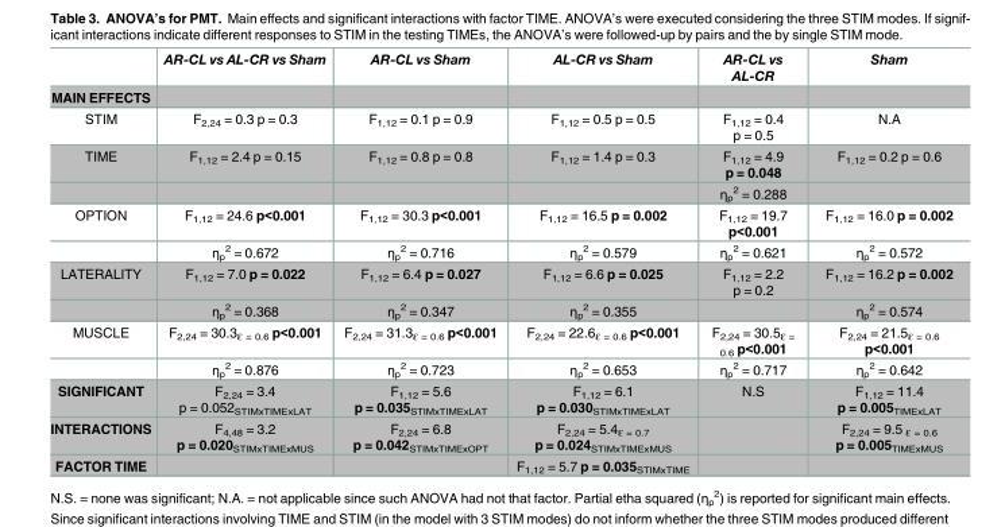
<table><thead><tr><td></td><td>AR-CL vs AL-CR vs Sham</td><td>AR-CL vs Sham</td><td>AL-CR vs Sham</td><td>AR-CL vs AL-CR</td><td>Sham</td></tr></thead><tbody><tr><td colspan="6">MAIN EFFECTS</td></tr><tr><td>STIM</td><td>F<sub>2,24</sub> = 0.3 p = 0.3</td><td>F<sub>1,12</sub> = 0.1 p = 0.9</td><td>F<sub>1,12</sub> = 0.5 p = 0.5</td><td>F<sub>1,12</sub> = 0.4 p = 0.5</td><td>N.A</td></tr><tr><td rowspan="2">TIME</td><td>F<sub>1,12</sub> = 2.4 p = 0.15</td><td>F<sub>1,12</sub> = 0.8 p = 0.8</td><td>F<sub>1,12</sub> = 1.4 p = 0.3</td><td>F<sub>1,12</sub> = 4.9 p = 0.048</td><td>F<sub>1,12</sub> = 0.2 p = 0.6</td></tr><tr><td></td><td></td><td></td><td>η<sub>p</sub> <sup>2</sup> = 0.288</td><td></td></tr><tr><td rowspan="2">OPTION</td><td>F<sub>1,12</sub> = 24.6 p&lt;0.001</td><td>F<sub>1,12</sub> = 30.3 p&lt;0.001</td><td>F<sub>1,12</sub> = 16.5 p = 0.002</td><td>F<sub>1,12</sub> = 19.7 p&lt;0.001</td><td>F<sub>1,12</sub> = 16.0 p = 0.002</td></tr><tr><td>η<sub>p</sub> <sup>2</sup> = 0.672</td><td>η<sub>p</sub> <sup>2</sup> = 0.716</td><td>η<sub>p</sub> <sup>2</sup> = 0.579</td><td>η<sub>p</sub> <sup>2</sup> = 0.621</td><td>η<sub>p</sub> <sup>2</sup> = 0.572</td></tr><tr><td rowspan="2">LATERALITY</td><td>F<sub>1,12</sub> = 7.0 p = 0.022</td><td>F<sub>1,12</sub> = 6.4 p = 0.027</td><td>F<sub>1,12</sub> = 6.6 p = 0.025</td><td>F<sub>1,12</sub> = 2.2 p = 0.2</td><td>F<sub>1,12</sub> = 16.2 p = 0.002</td></tr><tr><td>η<sub>p</sub> <sup>2</sup> = 0.368</td><td>η<sub>p</sub> <sup>2</sup> = 0.347</td><td>η<sub>p</sub> <sup>2</sup> = 0.355</td><td></td><td>η<sub>p</sub> <sup>2</sup> = 0.574</td></tr><tr><td rowspan="2">MUSCLE</td><td>F<sub>2,24</sub> = 30.3<sub>Ԑ = 0.6</sub> p&lt;0.001</td><td>F<sub>2,24</sub> = 31.3<sub>Ԑ = 0.6</sub> p&lt;0.001</td><td>F<sub>2,24</sub> = 22.6<sub>Ԑ = 0.6</sub> p&lt;0.001</td><td>F<sub>2,24</sub> = 30.5<sub>Ԑ = 0.6</sub> p&lt;0.001</td><td>F<sub>2,24</sub> = 21.5<sub>Ԑ = 0.6</sub> p&lt;0.001</td></tr><tr><td>η<sub>p</sub> <sup>2</sup> = 0.876</td><td>η<sub>p</sub> <sup>2</sup> = 0.723</td><td>η<sub>p</sub> <sup>2</sup> = 0.653</td><td>η<sub>p</sub> <sup>2</sup> = 0.717</td><td>η<sub>p</sub> <sup>2</sup> = 0.642</td></tr><tr><td>SIGNIFICANT</td><td>F<sub>2,24</sub> = 3.4 p = 0.052<sub>STIMxTIMExLAT</sub></td><td>F<sub>1,12</sub> = 5.6 p = 0.035<sub>STIMxTIMExLAT</sub></td><td>F<sub>1,12</sub> = 6.1 p = 0.030<sub>STIMxTIMExLAT</sub></td><td>N.S</td><td>F<sub>1,12</sub> = 11.4 p = 0.005<sub>TIMExLAT</sub></td></tr><tr><td>INTERACTIONS</td><td>F<sub>4,48</sub> = 3.2 p = 0.020<sub>STIMxTIMExMUS</sub></td><td>F<sub>2,24</sub> = 6.8 p = 0.042<sub>STIMxTIMExOPT</sub></td><td>F<sub>2,24</sub> = 5.4<sub>Ԑ = 0.7</sub> p = 0.024<sub>STIMxTIMExMUS</sub></td><td></td><td>F<sub>2,24</sub> = 9.5 <sub>Ԑ = 0.6</sub> p = 0.005<sub>TIMExMUS</sub></td></tr><tr><td>FACTOR TIME</td><td></td><td></td><td>F<sub>1,12</sub> = 5.7 p = 0.035<sub>STIMxTIME</sub></td><td></td><td></td></tr></tbody></table>